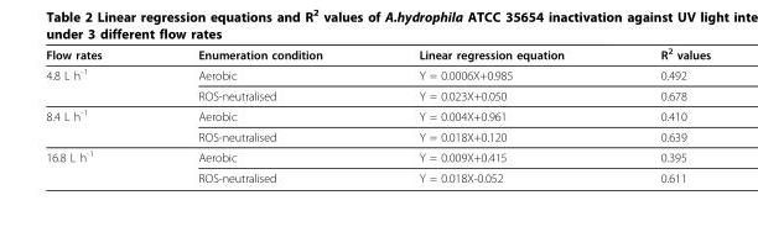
<table><thead><tr><td>Flow rates</td><td>Enumeration condition</td><td>Linear regression equation</td><td>R<sup>2</sup> values</td></tr></thead><tbody><tr><td rowspan="2">4.8 L h<sup>-1</sup></td><td>Aerobic</td><td>Y = 0.0006X+0.985</td><td>0.492</td></tr><tr><td>ROS-neutralised</td><td>Y = 0.023X+0.050</td><td>0.678</td></tr><tr><td rowspan="2">8.4 L h<sup>-1</sup></td><td>Aerobic</td><td>Y = 0.004X+0.961</td><td>0.410</td></tr><tr><td>ROS-neutralised</td><td>Y = 0.018X+0.120</td><td>0.639</td></tr><tr><td rowspan="2">16.8 L h<sup>-1</sup></td><td>Aerobic</td><td>Y = 0.009X+0.415</td><td>0.395</td></tr><tr><td>ROS-neutralised</td><td>Y = 0.018X-0.052</td><td>0.611</td></tr></tbody></table>